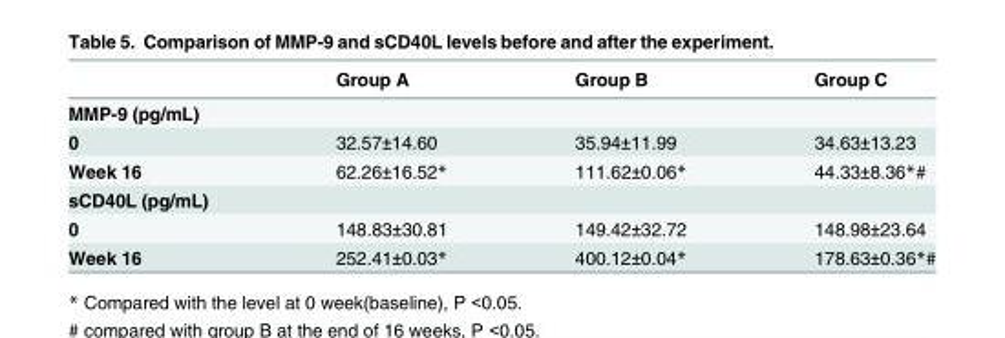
<table><thead><tr><td></td><td>Group A</td><td>Group B</td><td>Group C</td></tr></thead><tbody><tr><td colspan="4">MMP-9 (pg/mL)</td></tr><tr><td>0</td><td>32.57±14.60</td><td>35.94±11.99</td><td>34.63±13.23</td></tr><tr><td>Week 16</td><td>62.26±16.52*</td><td>111.62±0.06*</td><td>44.33±8.36*#</td></tr><tr><td colspan="4">sCD40L (pg/mL)</td></tr><tr><td>0</td><td>148.83±30.81</td><td>149.42±32.72</td><td>148.98±23.64</td></tr><tr><td>Week 16</td><td>252.41±0.03*</td><td>400.12±0.04*</td><td>178.63±0.36*#</td></tr></tbody></table>